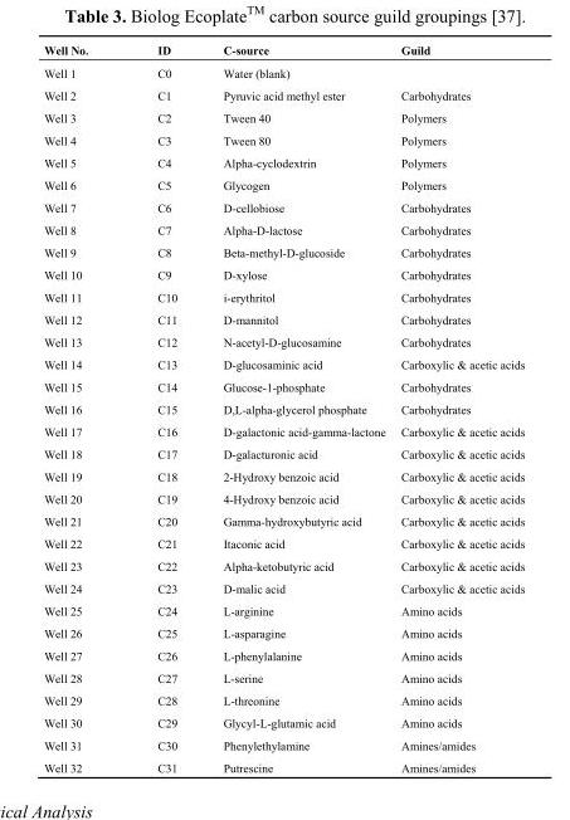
<table><thead><tr><td>Well No.</td><td>ID</td><td>C-source</td><td>Guild</td></tr></thead><tbody><tr><td>Well 1</td><td>C0</td><td>Water (blank)</td><td></td></tr><tr><td>Well 2</td><td>C1</td><td>Pyruvic acid methyl ester</td><td>Carbohydrates</td></tr><tr><td>Well 3</td><td>C2</td><td>Tween 40</td><td>Polymers</td></tr><tr><td>Well 4</td><td>C3</td><td>Tween 80</td><td>Polymers</td></tr><tr><td>Well 5</td><td>C4</td><td>Alpha-cyclodextrin</td><td>Polymers</td></tr><tr><td>Well 6</td><td>C5</td><td>Glycogen</td><td>Polymers</td></tr><tr><td>Well 7</td><td>C6</td><td>D-cellobiose</td><td>Carbohydrates</td></tr><tr><td>Well 8</td><td>C7</td><td>Alpha-D-lactose</td><td>Carbohydrates</td></tr><tr><td>Well 9</td><td>C8</td><td>Beta-methyl-D-glucoside</td><td>Carbohydrates</td></tr><tr><td>Well 10</td><td>C9</td><td>D-xylose</td><td>Carbohydrates</td></tr><tr><td>Well 11</td><td>C10</td><td>i-erythritol</td><td>Carbohydrates</td></tr><tr><td>Well 12</td><td>C11</td><td>D-mannitol</td><td>Carbohydrates</td></tr><tr><td>Well 13</td><td>C12</td><td>N-acetyl-D-glucosamine</td><td>Carbohydrates</td></tr><tr><td>Well 14</td><td>C13</td><td>D-glucosaminic acid</td><td>Carboxylic &amp; acetic acids</td></tr><tr><td>Well 15</td><td>C14</td><td>Glucose-1-phosphate</td><td>Carbohydrates</td></tr><tr><td>Well 16</td><td>C15</td><td>D,L-alpha-glycerol phosphate</td><td>Carbohydrates</td></tr><tr><td>Well 17</td><td>C16</td><td>D-galactonic acid-gamma-lactone</td><td>Carboxylic &amp; acetic acids</td></tr><tr><td>Well 18</td><td>C17</td><td>D-galacturonic acid</td><td>Carboxylic &amp; acetic acids</td></tr><tr><td>Well 19</td><td>C18</td><td>2-Hydroxy benzoic acid</td><td>Carboxylic &amp; acetic acids</td></tr><tr><td>Well 20</td><td>C19</td><td>4-Hydroxy benzoic acid</td><td>Carboxylic &amp; acetic acids</td></tr><tr><td>Well 21</td><td>C20</td><td>Gamma-hydroxybutyric acid</td><td>Carboxylic &amp; acetic acids</td></tr><tr><td>Well 22</td><td>C21</td><td>Itaconic acid</td><td>Carboxylic &amp; acetic acids</td></tr><tr><td>Well 23</td><td>C22</td><td>Alpha-ketobutyric acid</td><td>Carboxylic &amp; acetic acids</td></tr><tr><td>Well 24</td><td>C23</td><td>D-malic acid</td><td>Carboxylic &amp; acetic acids</td></tr><tr><td>Well 25</td><td>C24</td><td>L-arginine</td><td>Amino acids</td></tr><tr><td>Well 26</td><td>C25</td><td>L-asparagine</td><td>Amino acids</td></tr><tr><td>Well 27</td><td>C26</td><td>L-phenylalanine</td><td>Amino acids</td></tr><tr><td>Well 28</td><td>C27</td><td>L-serine</td><td>Amino acids</td></tr><tr><td>Well 29</td><td>C28</td><td>L-threonine</td><td>Amino acids</td></tr><tr><td>Well 30</td><td>C29</td><td>Glycyl-L-glutamic acid</td><td>Amino acids</td></tr><tr><td>Well 31</td><td>C30</td><td>Phenylethylamine</td><td>Amines/amides</td></tr><tr><td>Well 32</td><td>C31</td><td>Putrescine</td><td>Amines/amides</td></tr></tbody></table>